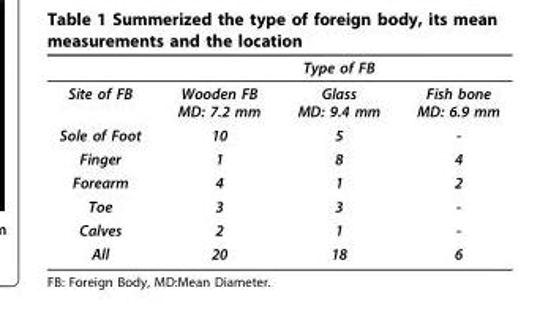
<table><thead><tr><td rowspan="2">Site of FB</td><td colspan="3">Type of FB</td></tr><tr><td>Wooden FB MD: 7.2 mm</td><td>Glass MD: 9.4 mm</td><td>Fish bone MD: 6.9 mm</td></tr></thead><tbody><tr><td>Sole of Foot</td><td>10</td><td>5</td><td>-</td></tr><tr><td>Finger</td><td>1</td><td>8</td><td>4</td></tr><tr><td>Forearm</td><td>4</td><td>1</td><td>2</td></tr><tr><td>Toe</td><td>3</td><td>3</td><td>-</td></tr><tr><td>Calves</td><td>2</td><td>1</td><td>-</td></tr><tr><td>All</td><td>20</td><td>18</td><td>6</td></tr></tbody></table>